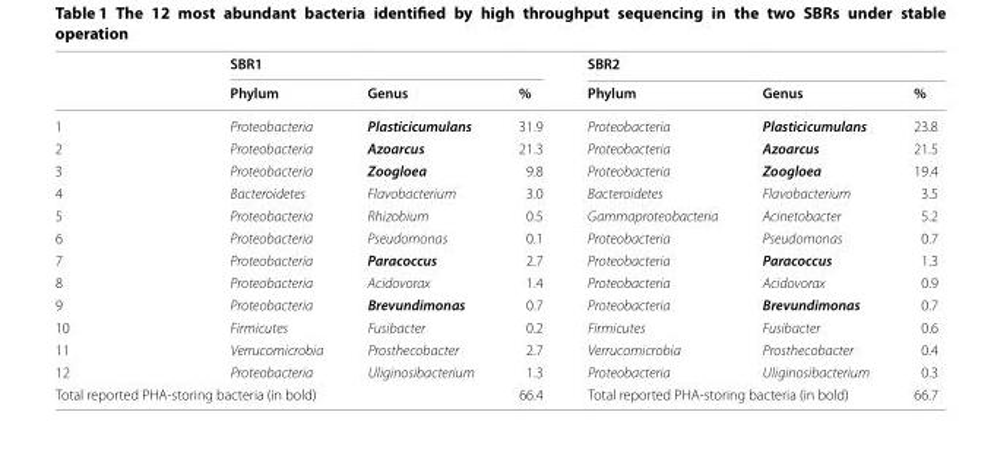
<table><thead><tr><td rowspan="2"></td><td colspan="3">SBR1</td><td colspan="3">SBR2</td></tr><tr><td>Phylum</td><td>Genus</td><td>%</td><td>Phylum</td><td>Genus</td><td>%</td></tr></thead><tbody><tr><td>1</td><td>Proteobacteria</td><td>Plasticicumulans</td><td>31.9</td><td>Proteobacteria</td><td>Plasticicumulans</td><td>23.8</td></tr><tr><td>2</td><td>Proteobacteria</td><td>Azoarcus</td><td>21.3</td><td>Proteobacteria</td><td>Azoarcus</td><td>21.5</td></tr><tr><td>3</td><td>Proteobacteria</td><td>Zoogloea</td><td>9.8</td><td>Proteobacteria</td><td>Zoogloea</td><td>19.4</td></tr><tr><td>4</td><td>Bacteroidetes</td><td>Flavobacterium</td><td>3.0</td><td>Bacteroidetes</td><td>Flavobacterium</td><td>3.5</td></tr><tr><td>5</td><td>Proteobacteria</td><td>Rhizobium</td><td>0.5</td><td>Gammaproteobacteria</td><td>Acinetobacter</td><td>5.2</td></tr><tr><td>6</td><td>Proteobacteria</td><td>Pseudomonas</td><td>0.1</td><td>Proteobacteria</td><td>Pseudomonas</td><td>0.7</td></tr><tr><td>7</td><td>Proteobacteria</td><td>Paracoccus</td><td>2.7</td><td>Proteobacteria</td><td>Paracoccus</td><td>1.3</td></tr><tr><td>8</td><td>Proteobacteria</td><td>Acidovorax</td><td>1.4</td><td>Proteobacteria</td><td>Acidovorax</td><td>0.9</td></tr><tr><td>9</td><td>Proteobacteria</td><td>Brevundimonas</td><td>0.7</td><td>Proteobacteria</td><td>Brevundimonas</td><td>0.7</td></tr><tr><td>10</td><td>Firmicutes</td><td>Fusibacter</td><td>0.2</td><td>Firmicutes</td><td>Fusibacter</td><td>0.6</td></tr><tr><td>11</td><td>Verrucomicrobia</td><td>Prosthecobacter</td><td>2.7</td><td>Verrucomicrobia</td><td>Prosthecobacter</td><td>0.4</td></tr><tr><td>12</td><td>Proteobacteria</td><td>Uliginosibacterium</td><td>1.3</td><td>Proteobacteria</td><td>Uliginosibacterium</td><td>0.3</td></tr><tr><td colspan="3">Total reported PHA-storing bacteria (in bold)</td><td>66.4</td><td colspan="2">Total reported PHA-storing bacteria (in bold)</td><td>66.7</td></tr></tbody></table>